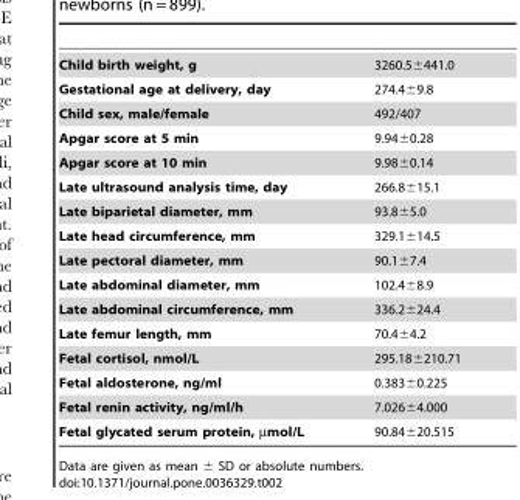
<table><tbody><tr><td>Child birth weight, g</td><td>3260.5±441.0</td></tr><tr><td>Gestational age at delivery, day</td><td>274.4±9.8</td></tr><tr><td>Child sex, male/female</td><td>492/407</td></tr><tr><td>Apgar score at 5 min</td><td>9.94±0.28</td></tr><tr><td>Apgar score at 10 min</td><td>9.98±0.14</td></tr><tr><td>Late ultrasound analysis time, day</td><td>266.8±15.1</td></tr><tr><td>Late biparietal diameter, mm</td><td>93.8±5.0</td></tr><tr><td>Late head circumference, mm</td><td>329.1±14.5</td></tr><tr><td>Late pectoral diameter, mm</td><td>90.1±7.4</td></tr><tr><td>Late abdominal diameter, mm</td><td>102.4±8.9</td></tr><tr><td>Late abdominal circumference, mm</td><td>336.2±24.4</td></tr><tr><td>Late femur length, mm</td><td>70.4±4.2</td></tr><tr><td>Fetal cortisol, nmol/L</td><td>295.18±210.71</td></tr><tr><td>Fetal aldosterone, ng/ml</td><td>0.383±0.225</td></tr><tr><td>Fetal renin activity, ng/ml/h</td><td>7.026±4.000</td></tr><tr><td>Fetal glycated serum protein, µmol/L</td><td>90.84±20.515</td></tr></tbody></table>